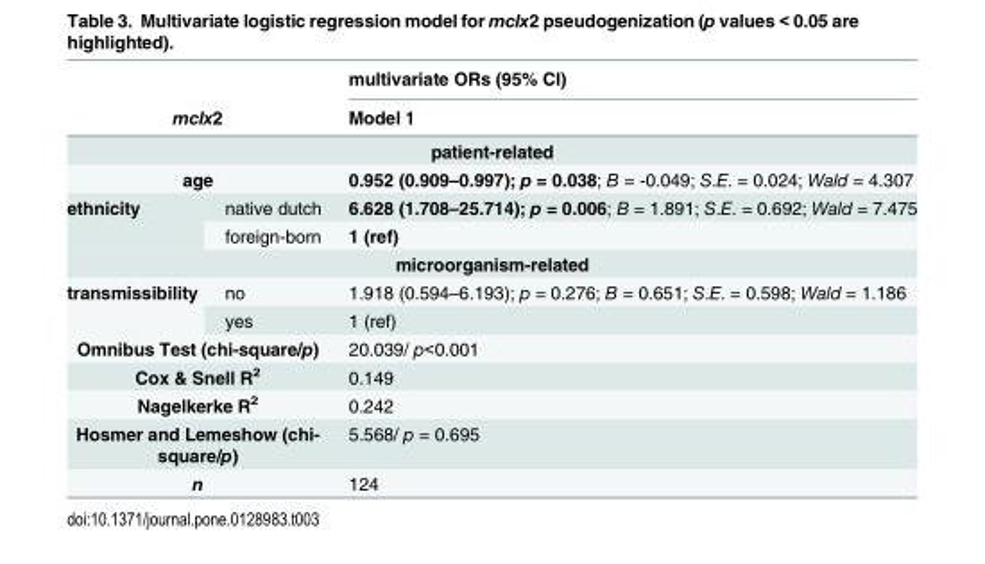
<table><thead><tr><td></td><td></td><td rowspan="2">multivariate ORs (95% CI) Model 1</td></tr><tr><td colspan="2">mclx2</td></tr></thead><tbody><tr><td colspan="3">patient-related</td></tr><tr><td colspan="2">age</td><td>0.952 (0.909–0.997); p = 0.038; B = -0.049; S.E. = 0.024; Wald = 4.307</td></tr><tr><td rowspan="2">ethnicity</td><td>native dutch</td><td>6.628 (1.708–25.714); p = 0.006; B = 1.891; S.E. = 0.692; Wald = 7.475</td></tr><tr><td>foreign-born</td><td>1 (ref)</td></tr><tr><td colspan="3">microorganism-related</td></tr><tr><td rowspan="2">transmissibility</td><td>no</td><td>1.918 (0.594–6.193); p = 0.276; B = 0.651; S.E. = 0.598; Wald = 1.186</td></tr><tr><td>yes</td><td>1 (ref)</td></tr><tr><td colspan="2">Omnibus Test (chi-square/p)</td><td>20.039/ p&lt;0.001</td></tr><tr><td colspan="2">Cox &amp; Snell R<sup>2</sup></td><td>0.149</td></tr><tr><td colspan="2">Nagelkerke R<sup>2</sup></td><td>0.242</td></tr><tr><td colspan="2">Hosmer and Lemeshow (chi- square/p)</td><td>5.568/ p = 0.695</td></tr><tr><td colspan="2">n</td><td>124</td></tr></tbody></table>